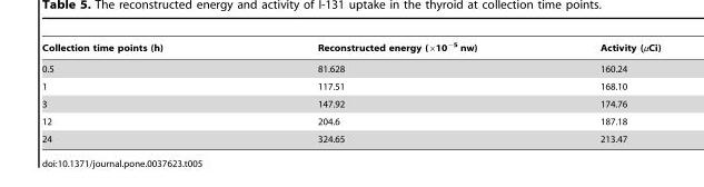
<table><thead><tr><td>Collection time points (h)</td><td>Reconstructed energy (×10<sup>−5</sup> nw)</td><td>Activity (µCi)</td></tr></thead><tbody><tr><td>0.5</td><td>81.628</td><td>160.24</td></tr><tr><td>1</td><td>117.51</td><td>168.10</td></tr><tr><td>3</td><td>147.92</td><td>174.76</td></tr><tr><td>12</td><td>204.6</td><td>187.18</td></tr><tr><td>24</td><td>324.65</td><td>213.47</td></tr></tbody></table>